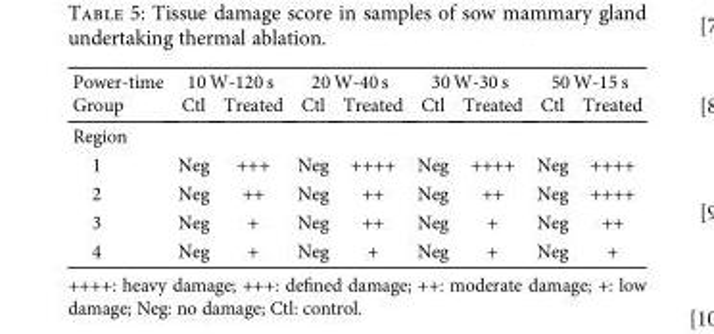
<table><thead><tr><td rowspan="2">Power-time Group</td><td colspan="2">10 W-120 s</td><td colspan="2">20 W-40 s</td><td colspan="2">30 W-30 s</td><td colspan="2">50 W-15 s</td></tr><tr><td>Ctl</td><td>Treated</td><td>Ctl</td><td>Treated</td><td>Ctl</td><td>Treated</td><td>Ctl</td><td>Treated</td></tr></thead><tbody><tr><td colspan="9">Region</td></tr><tr><td>1</td><td>Neg</td><td>+++</td><td>Neg</td><td>++++</td><td>Neg</td><td>++++</td><td>Neg</td><td>++++</td></tr><tr><td>2</td><td>Neg</td><td>++</td><td>Neg</td><td>++</td><td>Neg</td><td>++</td><td>Neg</td><td>++++</td></tr><tr><td>3</td><td>Neg</td><td>+</td><td>Neg</td><td>++</td><td>Neg</td><td>+</td><td>Neg</td><td>++</td></tr><tr><td>4</td><td>Neg</td><td>+</td><td>Neg</td><td>+</td><td>Neg</td><td>+</td><td>Neg</td><td>+</td></tr></tbody></table>